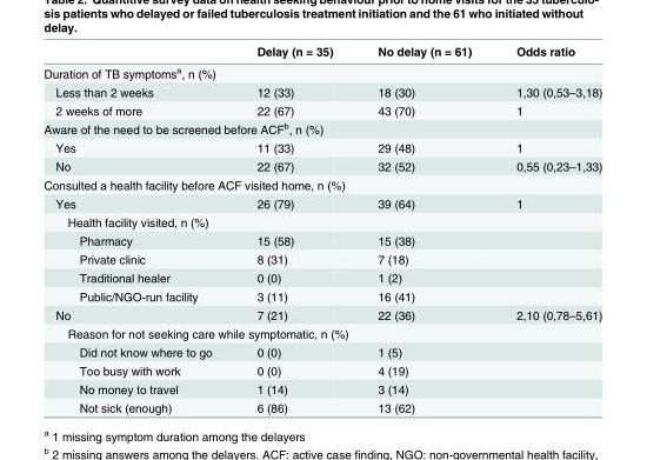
<table><thead><tr><td></td><td>Delay (n = 35)</td><td>No delay (n = 61)</td><td>Odds ratio</td></tr></thead><tbody><tr><td colspan="4">Duration of TB symptoms<sup>a</sup>, n (%)</td></tr><tr><td>Less than 2 weeks</td><td>12 (33)</td><td>18 (30)</td><td>1,30 (0,53–3,18)</td></tr><tr><td>2 weeks of more</td><td>22 (67)</td><td>43 (70)</td><td>1</td></tr><tr><td colspan="4">Aware of the need to be screened before ACF<sup>b</sup>, n (%)</td></tr><tr><td>Yes</td><td>11 (33)</td><td>29 (48)</td><td>1</td></tr><tr><td>No</td><td>22 (67)</td><td>32 (52)</td><td>0,55 (0,23–1,33)</td></tr><tr><td colspan="4">Consulted a health facility before ACF visited home, n (%)</td></tr><tr><td>Yes</td><td>26 (79)</td><td>39 (64)</td><td>1</td></tr><tr><td colspan="4">Health facility visited, n (%)</td></tr><tr><td>Pharmacy</td><td>15 (58)</td><td>15 (38)</td><td></td></tr><tr><td>Private clinic</td><td>8 (31)</td><td>7 (18)</td><td></td></tr><tr><td>Traditional healer</td><td>0 (0)</td><td>1 (2)</td><td></td></tr><tr><td>Public/NGO-run facility</td><td>3 (11)</td><td>16 (41)</td><td></td></tr><tr><td>No</td><td>7 (21)</td><td>22 (36)</td><td>2,10 (0,78–5,61)</td></tr><tr><td colspan="4">Reason for not seeking care while symptomatic, n (%)</td></tr><tr><td>Did not know where to go</td><td>0 (0)</td><td>1 (5)</td><td></td></tr><tr><td>Too busy with work</td><td>0 (0)</td><td>4 (19)</td><td></td></tr><tr><td>No money to travel</td><td>1 (14)</td><td>3 (14)</td><td></td></tr><tr><td>Not sick (enough)</td><td>6 (86)</td><td>13 (62)</td><td></td></tr></tbody></table>